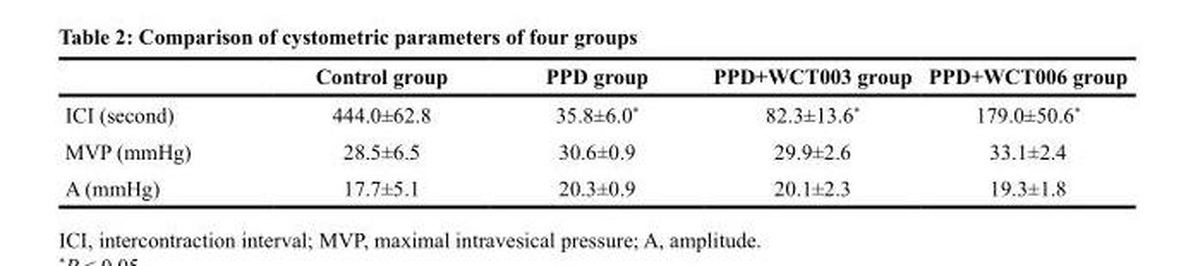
<table><thead><tr><td></td><td>Control group</td><td>PPD group</td><td>PPD+WCT003 group</td><td>PPD+WCT006 group</td></tr></thead><tbody><tr><td>ICI (second)</td><td>444.0±62.8</td><td>35.8±6.0*</td><td>82.3±13.6*</td><td>179.0±50.6*</td></tr><tr><td>MVP (mmHg)</td><td>28.5±6.5</td><td>30.6±0.9</td><td>29.9±2.6</td><td>33.1±2.4</td></tr><tr><td>A (mmHg)</td><td>17.7±5.1</td><td>20.3±0.9</td><td>20.1±2.3</td><td>19.3±1.8</td></tr></tbody></table>